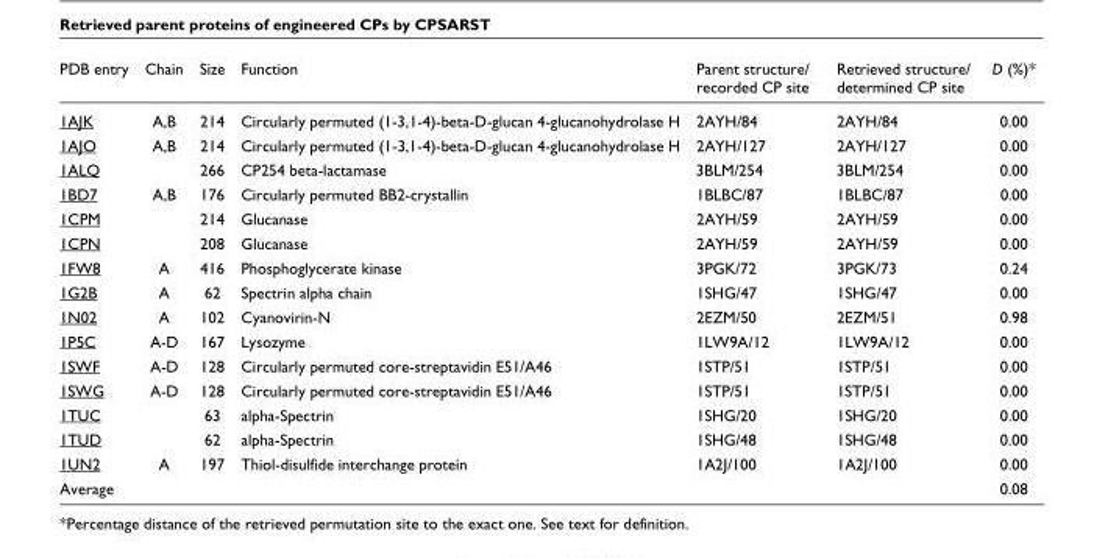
<table><thead><tr><td>PDB entry</td><td>Chain</td><td>Size</td><td>Function</td><td>Parent structure/ recorded CP site</td><td>Retrieved structure/ determined CP site</td><td>D (%)*</td></tr></thead><tbody><tr><td>1AJK</td><td>A,B</td><td>214</td><td>Circularly permuted (1-3,1-4)-beta-D-glucan 4-glucanohydrolase H</td><td>2AYH/84</td><td>2AYH/84</td><td>0.00</td></tr><tr><td>1AJO</td><td>A,B</td><td>214</td><td>Circularly permuted (1-3,1-4)-beta-D-glucan 4-glucanohydrolase H</td><td>2AYH/127</td><td>2AYH/127</td><td>0.00</td></tr><tr><td>1ALQ</td><td></td><td>266</td><td>CP254 beta-lactamase</td><td>3BLM/254</td><td>3BLM/254</td><td>0.00</td></tr><tr><td>1BD7</td><td>A,B</td><td>176</td><td>Circularly permuted BB2-crystallin</td><td>1BLBC/87</td><td>1BLBC/87</td><td>0.00</td></tr><tr><td>1CPM</td><td></td><td>214</td><td>Glucanase</td><td>2AYH/59</td><td>2AYH/59</td><td>0.00</td></tr><tr><td>1CPN</td><td></td><td>208</td><td>Glucanase</td><td>2AYH/59</td><td>2AYH/59</td><td>0.00</td></tr><tr><td>1FW8</td><td>A</td><td>416</td><td>Phosphoglycerate kinase</td><td>3PGK/72</td><td>3PGK/73</td><td>0.24</td></tr><tr><td>1G2B</td><td>A</td><td>62</td><td>Spectrin alpha chain</td><td>1SHG/47</td><td>1SHG/47</td><td>0.00</td></tr><tr><td>1N02</td><td>A</td><td>102</td><td>Cyanovirin-N</td><td>2EZM/50</td><td>2EZM/51</td><td>0.98</td></tr><tr><td>1P5C</td><td>A-D</td><td>167</td><td>Lysozyme</td><td>1LW9A/12</td><td>1LW9A/12</td><td>0.00</td></tr><tr><td>1SWF</td><td>A-D</td><td>128</td><td>Circularly permuted core-streptavidin E51/A46</td><td>1STP/51</td><td>1STP/51</td><td>0.00</td></tr><tr><td>1SWG</td><td>A-D</td><td>128</td><td>Circularly permuted core-streptavidin E51/A46</td><td>1STP/51</td><td>1STP/51</td><td>0.00</td></tr><tr><td>1TUC</td><td></td><td>63</td><td>alpha-Spectrin</td><td>1SHG/20</td><td>1SHG/20</td><td>0.00</td></tr><tr><td>1TUD</td><td></td><td>62</td><td>alpha-Spectrin</td><td>1SHG/48</td><td>1SHG/48</td><td>0.00</td></tr><tr><td>1UN2</td><td>A</td><td>197</td><td>Thiol-disulfide interchange protein</td><td>1A2J/100</td><td>1A2J/100</td><td>0.00</td></tr><tr><td>Average</td><td></td><td></td><td></td><td></td><td></td><td>0.08</td></tr></tbody></table>